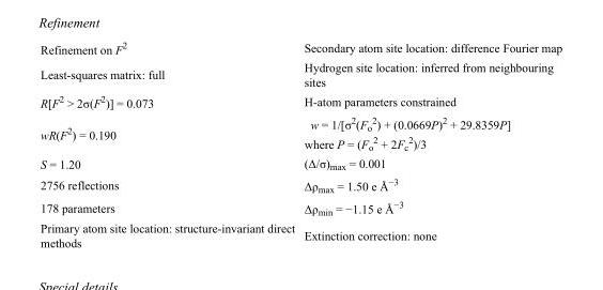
<table><tbody><tr><td>Refinement on F<sup>2</sup></td><td>Secondary atom site location: difference Fourier map</td></tr><tr><td>Least-squares matrix: full</td><td>Hydrogen site location: inferred from neighbouring sites</td></tr><tr><td>R[F<sup>2</sup> &gt; 2σ(F<sup>2</sup>)] = 0.073</td><td>H-atom parameters constrained</td></tr><tr><td>wR(F<sup>2</sup>) = 0.190</td><td>w = 1/[σ<sup>2</sup>(F<sub>o</sub> <sup>2</sup>) + (0.0669P)<sup>2</sup> + 29.8359P] where P = (F<sub>o</sub> <sup>2</sup> + 2F<sub>c</sub> <sup>2</sup>)/3</td></tr><tr><td>S = 1.20</td><td>(Δ/σ)<sub>max</sub> = 0.001</td></tr><tr><td>2756 reflections</td><td>Δρ<sub>max</sub> = 1.50 e Å<sup>−3</sup></td></tr><tr><td>178 parameters</td><td>Δρ<sub>min</sub> = −1.15 e Å<sup>−3</sup></td></tr><tr><td>Primary atom site location: structure-invariant direct methods</td><td>Extinction correction: none</td></tr></tbody></table>